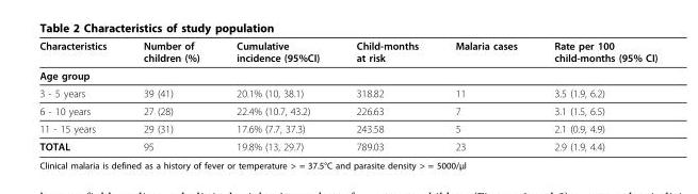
<table><thead><tr><td>Characteristics</td><td>Number of children (%)</td><td>Cumulative incidence (95%CI)</td><td>Child-months at risk</td><td>Malaria cases</td><td>Rate per 100 child-months (95% CI)</td></tr></thead><tbody><tr><td colspan="6">Age group</td></tr><tr><td>3 - 5 years</td><td>39 (41)</td><td>20.1% (10, 38.1)</td><td>318.82</td><td>11</td><td>3.5 (1.9, 6.2)</td></tr><tr><td>6 - 10 years</td><td>27 (28)</td><td>22.4% (10.7, 43.2)</td><td>226.63</td><td>7</td><td>3.1 (1.5, 6.5)</td></tr><tr><td>11 - 15 years</td><td>29 (31)</td><td>17.6% (7.7, 37.3)</td><td>243.58</td><td>5</td><td>2.1 (0.9, 4.9)</td></tr><tr><td>TOTAL</td><td>95</td><td>19.8% (13, 29.7)</td><td>789.03</td><td>23</td><td>2.9 (1.9, 4.4)</td></tr></tbody></table>